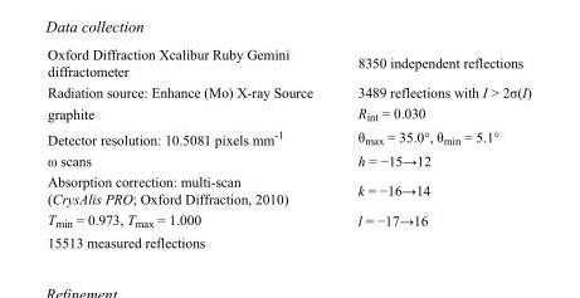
<table><tbody><tr><td>Oxford Diffraction Xcalibur Ruby Gemini diffractometer</td><td>8350 independent reflections</td></tr><tr><td>Radiation source: Enhance (Mo) X-ray Source</td><td>3489 reflections with I &gt; 2σ(I)</td></tr><tr><td>graphite</td><td>R<sub>int</sub> = 0.030</td></tr><tr><td>Detector resolution: 10.5081 pixels mm<sup>-1</sup></td><td>θ<sub>max</sub> = 35.0°, θ<sub>min</sub> = 5.1°</td></tr><tr><td>ω scans</td><td>h = −15→12</td></tr><tr><td>Absorption correction: multi-scan (CrysAlis PRO; Oxford Diffraction, 2010)</td><td>k = −16→14</td></tr><tr><td>T<sub>min</sub> = 0.973, T<sub>max</sub> = 1.000</td><td>l = −17→16</td></tr><tr><td>15513 measured reflections</td><td></td></tr></tbody></table>